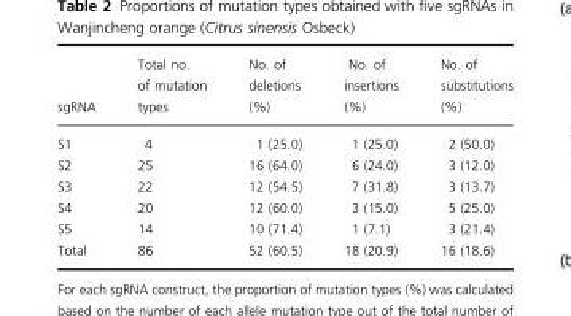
<table><thead><tr><td>sgRNA</td><td>Total no. of mutation types</td><td>No. of deletions (%)</td><td>No. of insertions (%)</td><td>No. of substitutions (%)</td></tr></thead><tbody><tr><td>S1</td><td>4</td><td>1 (25.0)</td><td>1 (25.0)</td><td>2 (50.0)</td></tr><tr><td>S2</td><td>25</td><td>16 (64.0)</td><td>6 (24.0)</td><td>3 (12.0)</td></tr><tr><td>S3</td><td>22</td><td>12 (54.5)</td><td>7 (31.8)</td><td>3 (13.7)</td></tr><tr><td>S4</td><td>20</td><td>12 (60.0)</td><td>3 (15.0)</td><td>5 (25.0)</td></tr><tr><td>S5</td><td>14</td><td>10 (71.4)</td><td>1 (7.1)</td><td>3 (21.4)</td></tr><tr><td>Total</td><td>86</td><td>52 (60.5)</td><td>18 (20.9)</td><td>16 (18.6)</td></tr></tbody></table>